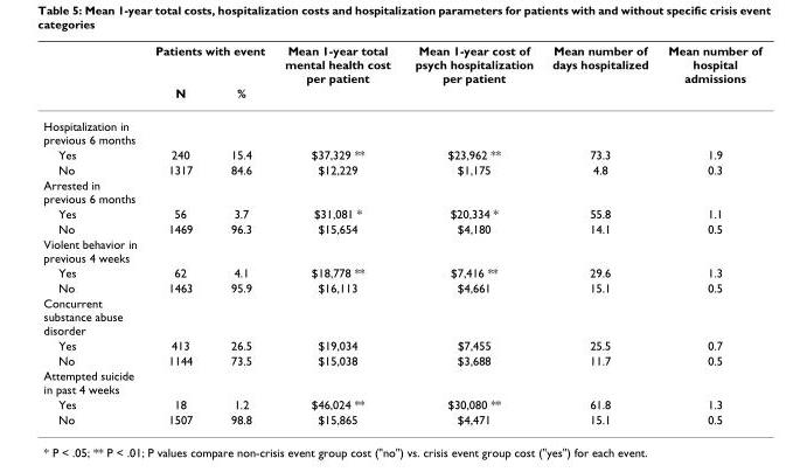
<table><thead><tr><td rowspan="2"></td><td colspan="2">Patients with event</td><td rowspan="2">Mean 1-year total mental health cost per patient</td><td rowspan="2">Mean 1-year cost of psych hospitalization per patient</td><td rowspan="2">Mean number of days hospitalized</td><td rowspan="2">Mean number of hospital admissions</td></tr><tr><td>N</td><td>%</td></tr></thead><tbody><tr><td colspan="7">Hospitalization in previous 6 months</td></tr><tr><td>Yes</td><td>240</td><td>15.4</td><td>$37,329 **</td><td>$23,962 **</td><td>73.3</td><td>1.9</td></tr><tr><td>No</td><td>1317</td><td>84.6</td><td>$12,229</td><td>$1,175</td><td>4.8</td><td>0.3</td></tr><tr><td colspan="7">Arrested in previous 6 months</td></tr><tr><td>Yes</td><td>56</td><td>3.7</td><td>$31,081 *</td><td>$20,334 *</td><td>55.8</td><td>1.1</td></tr><tr><td>No</td><td>1469</td><td>96.3</td><td>$15,654</td><td>$4,180</td><td>14.1</td><td>0.5</td></tr><tr><td colspan="7">Violent behavior in previous 4 weeks</td></tr><tr><td>Yes</td><td>62</td><td>4.1</td><td>$18,778 **</td><td>$7,416 **</td><td>29.6</td><td>1.3</td></tr><tr><td>No</td><td>1463</td><td>95.9</td><td>$16,113</td><td>$4,661</td><td>15.1</td><td>0.5</td></tr><tr><td colspan="7">Concurrent substance abuse disorder</td></tr><tr><td>Yes</td><td>413</td><td>26.5</td><td>$19,034</td><td>$7,455</td><td>25.5</td><td>0.7</td></tr><tr><td>No</td><td>1144</td><td>73.5</td><td>$15,038</td><td>$3,688</td><td>11.7</td><td>0.5</td></tr><tr><td colspan="7">Attempted suicide in past 4 weeks</td></tr><tr><td>Yes</td><td>18</td><td>1.2</td><td>$46,024 **</td><td>$30,080 **</td><td>61.8</td><td>1.3</td></tr><tr><td>No</td><td>1507</td><td>98.8</td><td>$15,865</td><td>$4,471</td><td>15.1</td><td>0.5</td></tr></tbody></table>